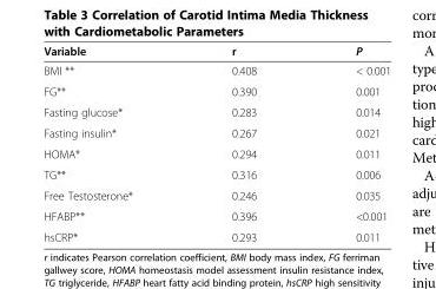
<table><thead><tr><td>Variable</td><td>r</td><td>P</td></tr></thead><tbody><tr><td>BMI **</td><td>0.408</td><td>&lt; 0.001</td></tr><tr><td>FG**</td><td>0.390</td><td>0.001</td></tr><tr><td>Fasting glucose*</td><td>0.283</td><td>0.014</td></tr><tr><td>Fasting insulin*</td><td>0.267</td><td>0.021</td></tr><tr><td>HOMA*</td><td>0.294</td><td>0.011</td></tr><tr><td>TG**</td><td>0.316</td><td>0.006</td></tr><tr><td>Free Testosterone*</td><td>0.246</td><td>0.035</td></tr><tr><td>HFABP**</td><td>0.396</td><td>&lt;0.001</td></tr><tr><td>hsCRP*</td><td>0.293</td><td>0.011</td></tr></tbody></table>